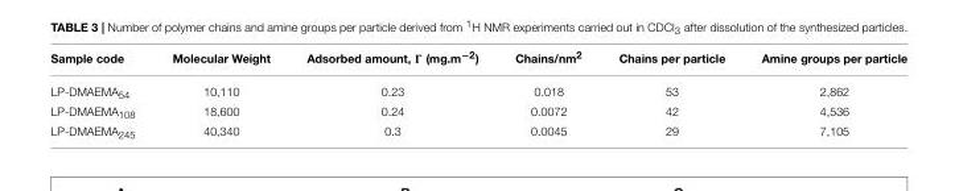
<table><thead><tr><td>Sample code</td><td>Molecular Weight</td><td>Adsorbed amount, Ŵ (mg.m−2)</td><td>Chains/nm<sup>2</sup></td><td>Chains per particle</td><td>Amine groups per particle</td></tr></thead><tbody><tr><td>LP-DMAEMA<sub>54</sub></td><td>10,110</td><td>0.23</td><td>0.018</td><td>53</td><td>2,862</td></tr><tr><td>LP-DMAEMA<sub>108</sub></td><td>18,600</td><td>0.24</td><td>0.0072</td><td>42</td><td>4,536</td></tr><tr><td>LP-DMAEMA<sub>245</sub></td><td>40,340</td><td>0.3</td><td>0.0045</td><td>29</td><td>7,105</td></tr></tbody></table>